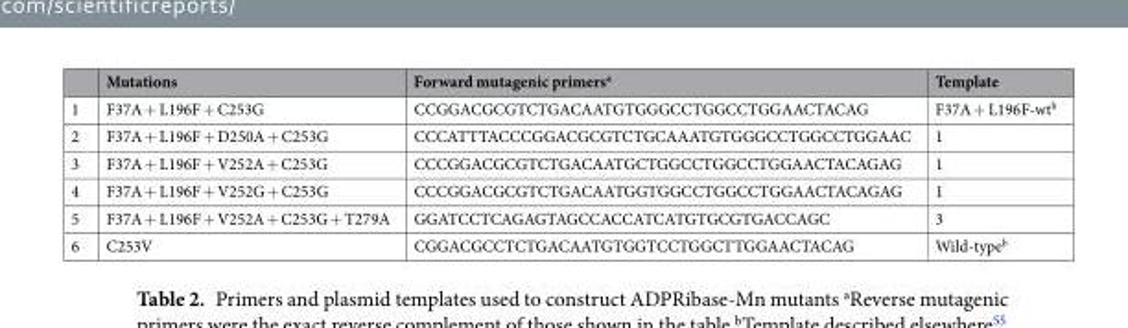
<table><thead><tr><td></td><td>Mutations</td><td>Forward mutagenic primers<sup>a</sup></td><td>Template</td></tr></thead><tbody><tr><td>1</td><td>F37A + L196F + C253G</td><td>CCGGACGCGTCTGACAATGTGGGCCTGGCCTGGAACTACAG</td><td>F37A + L196F-wt<sup>b</sup></td></tr><tr><td>2</td><td>F37A + L196F + D250A + C253G</td><td>CCCATTTACCCGGACGCGTCTGCAAATGTGGGCCTGGCCTGGAAC</td><td>1</td></tr><tr><td>3</td><td>F37A + L196F + V252A + C253G</td><td>CCCGGACGCGTCTGACAATGCTGGCCTGGCCTGGAACTACAGAG</td><td>1</td></tr><tr><td>4</td><td>F37A + L196F + V252G + C253G</td><td>CCCGGACGCGTCTGACAATGGTGGCCTGGCCTGGAACTACAGAG</td><td>1</td></tr><tr><td>5</td><td>F37A + L196F + V252A + C253G + T279A</td><td>GGATCCTCAGAGTAGCCACCATCATGTGCGTGACCAGC</td><td>3</td></tr><tr><td>6</td><td>C253V</td><td>CGGACGCCTCTGACAATGTGGTCCTGGCTTGGAACTACAG</td><td>Wild-type<sup>b</sup></td></tr></tbody></table>